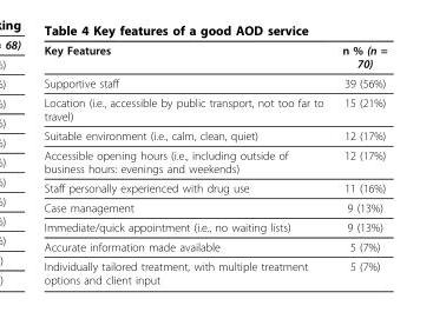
<table><thead><tr><td>Key Features</td><td>n % (n = 70)</td></tr></thead><tbody><tr><td>Supportive staff</td><td>39 (56%)</td></tr><tr><td>Location (i.e., accessible by public transport, not too far to travel)</td><td>15 (21%)</td></tr><tr><td>Suitable environment (i.e., calm, clean, quiet)</td><td>12 (17%)</td></tr><tr><td>Accessible opening hours (i.e., including outside of business hours: evenings and weekends)</td><td>12 (17%)</td></tr><tr><td>Staff personally experienced with drug use</td><td>11 (16%)</td></tr><tr><td>Case management</td><td>9 (13%)</td></tr><tr><td>Immediate/quick appointment (i.e., no waiting lists)</td><td>9 (13%)</td></tr><tr><td>Accurate information made available</td><td>5 (7%)</td></tr><tr><td>Individually tailored treatment, with multiple treatment options and client input</td><td>5 (7%)</td></tr></tbody></table>